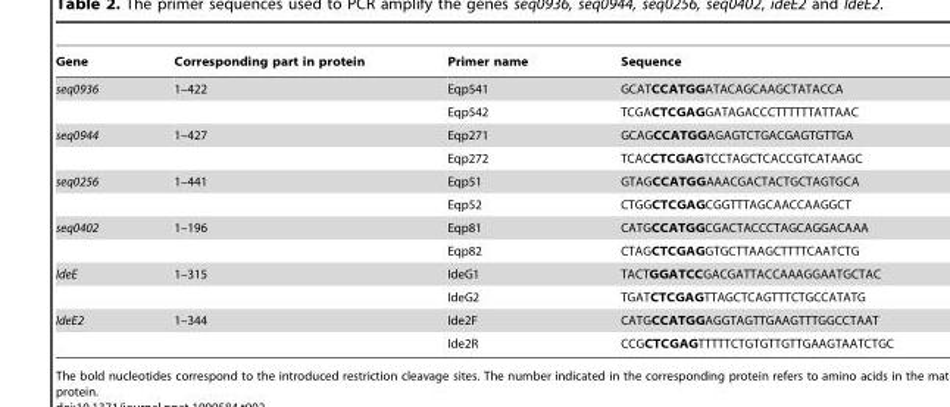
<table><thead><tr><td>Gene</td><td>Corresponding part in protein</td><td>Primer name</td><td>Sequence</td></tr></thead><tbody><tr><td rowspan="2">seq0936</td><td>1–422</td><td>Eqp541</td><td>GCATCCATGGATACAGCAAGCTATACCA</td></tr><tr><td></td><td>Eqp542</td><td>TCGACTCGAGGATAGACCCTTTTTTATTAAC</td></tr><tr><td rowspan="2">seq0944</td><td>1–427</td><td>Eqp271</td><td>GCAGCCATGGAGAGTCTGACGAGTGTTGA</td></tr><tr><td></td><td>Eqp272</td><td>TCACCTCGAGTCCTAGCTCACCGTCATAAGC</td></tr><tr><td rowspan="2">seq0256</td><td>1–441</td><td>Eqp51</td><td>GTAGCCATGGAAACGACTACTGCTAGTGCA</td></tr><tr><td></td><td>Eqp52</td><td>CTGGCTCGAGCGGTTTAGCAACCAAGGCT</td></tr><tr><td rowspan="2">seq0402</td><td>1–196</td><td>Eqp81</td><td>CATGCCATGGCGACTACCCTAGCAGGACAAA</td></tr><tr><td></td><td>Eqp82</td><td>CTAGCTCGAGGTGCTTAAGCTTTTCAATCTG</td></tr><tr><td rowspan="2">IdeE</td><td>1–315</td><td>IdeG1</td><td>TACTGGATCCGACGATTACCAAAGGAATGCTAC</td></tr><tr><td></td><td>IdeG2</td><td>TGATCTCGAGTTAGCTCAGTTTCTGCCATATG</td></tr><tr><td rowspan="2">IdeE2</td><td>1–344</td><td>Ide2F</td><td>CATGCCATGGAGGTAGTTGAAGTTTGGCCTAAT</td></tr><tr><td></td><td>Ide2R</td><td>CCGCTCGAGTTTTTCTGTGTTGTTGAAGTAATCTGC</td></tr></tbody></table>